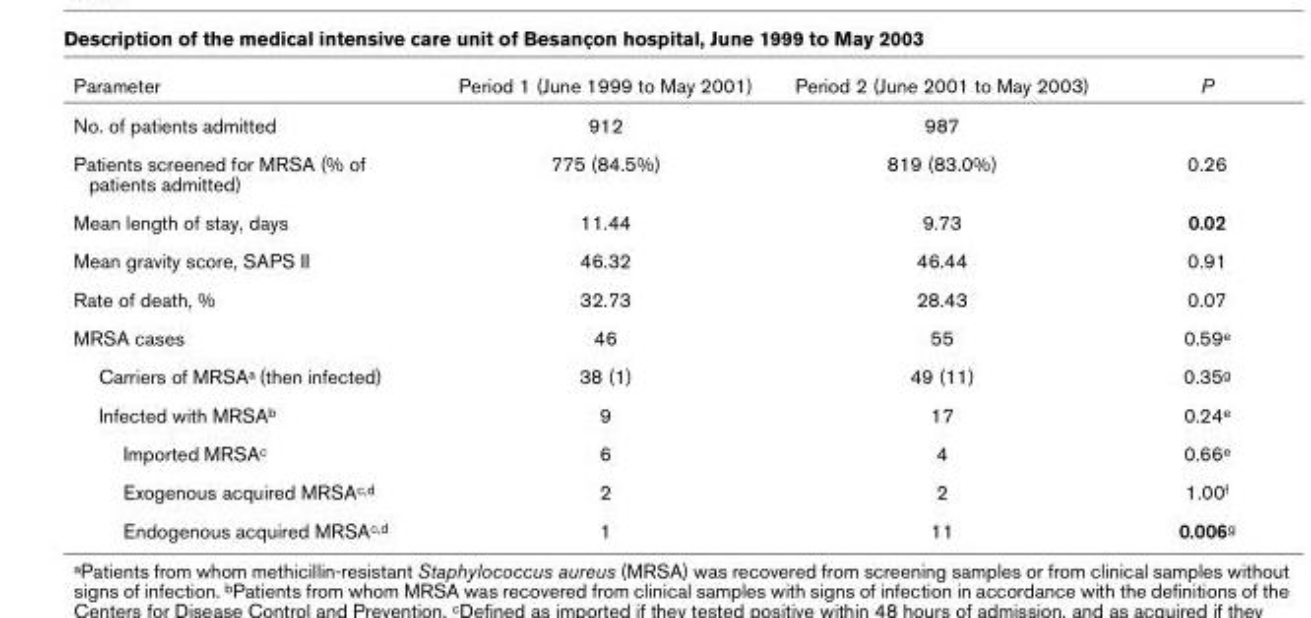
<table><thead><tr><td>Parameter</td><td>Period 1 (June 1999 to May 2001)</td><td>Period 2 (June 2001 to May 2003)</td><td>P</td></tr></thead><tbody><tr><td>No. of patients admitted</td><td>912</td><td>987</td><td></td></tr><tr><td>Patients screened for MRSA (% of patients admitted)</td><td>775 (84.5%)</td><td>819 (83.0%)</td><td>0.26</td></tr><tr><td>Mean length of stay, days</td><td>11.44</td><td>9.73</td><td>0.02</td></tr><tr><td>Mean gravity score, SAPS II</td><td>46.32</td><td>46.44</td><td>0.91</td></tr><tr><td>Rate of death, %</td><td>32.73</td><td>28.43</td><td>0.07</td></tr><tr><td>MRSA cases</td><td>46</td><td>55</td><td>0.59e</td></tr><tr><td>Carriers of MRSAa (then infected)</td><td>38 (1)</td><td>49 (11)</td><td>0.35g</td></tr><tr><td>Infected with MRSAb</td><td>9</td><td>17</td><td>0.24e</td></tr><tr><td>Imported MRSAc</td><td>6</td><td>4</td><td>0.66e</td></tr><tr><td>Exogenous acquired MRSAc,d</td><td>2</td><td>2</td><td>1.00f</td></tr><tr><td>Endogenous acquired MRSAc,d</td><td>1</td><td>11</td><td>0.006g</td></tr></tbody></table>